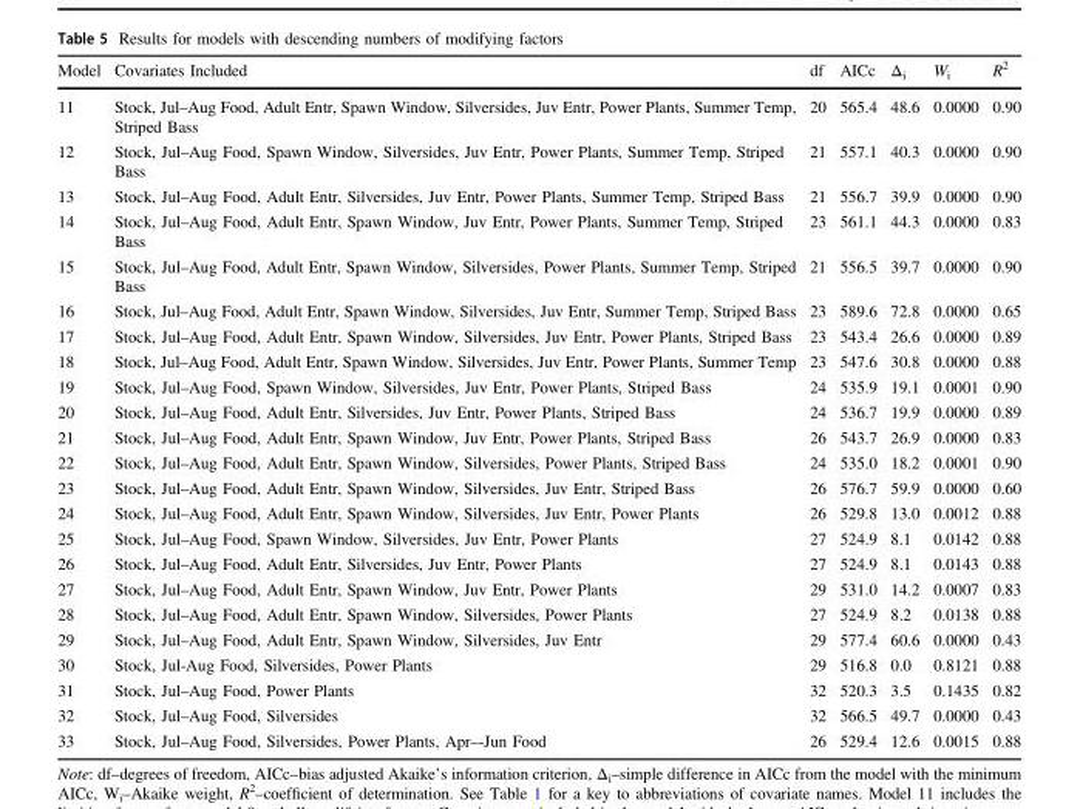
<table><thead><tr><td>Model</td><td>Covariates Included</td><td>df</td><td>AICc</td><td>Δ<sub>i</sub></td><td>W<sub>i</sub></td><td>R<sup>2</sup></td></tr></thead><tbody><tr><td>11</td><td>Stock, Jul–Aug Food, Adult Entr, Spawn Window, Silversides, Juv Entr, Power Plants, Summer Temp, Striped Bass</td><td>20</td><td>565.4</td><td>48.6</td><td>0.0000</td><td>0.90</td></tr><tr><td>12</td><td>Stock, Jul–Aug Food, Spawn Window, Silversides, Juv Entr, Power Plants, Summer Temp, Striped Bass</td><td>21</td><td>557.1</td><td>40.3</td><td>0.0000</td><td>0.90</td></tr><tr><td>13</td><td>Stock, Jul–Aug Food, Adult Entr, Silversides, Juv Entr, Power Plants, Summer Temp, Striped Bass</td><td>21</td><td>556.7</td><td>39.9</td><td>0.0000</td><td>0.90</td></tr><tr><td>14</td><td>Stock, Jul–Aug Food, Adult Entr, Spawn Window, Juv Entr, Power Plants, Summer Temp, Striped Bass</td><td>23</td><td>561.1</td><td>44.3</td><td>0.0000</td><td>0.83</td></tr><tr><td>15</td><td>Stock, Jul–Aug Food, Adult Entr, Spawn Window, Silversides, Power Plants, Summer Temp, Striped Bass</td><td>21</td><td>556.5</td><td>39.7</td><td>0.0000</td><td>0.90</td></tr><tr><td>16</td><td>Stock, Jul–Aug Food, Adult Entr, Spawn Window, Silversides, Juv Entr, Summer Temp, Striped Bass</td><td>23</td><td>589.6</td><td>72.8</td><td>0.0000</td><td>0.65</td></tr><tr><td>17</td><td>Stock, Jul–Aug Food, Adult Entr, Spawn Window, Silversides, Juv Entr, Power Plants, Striped Bass</td><td>23</td><td>543.4</td><td>26.6</td><td>0.0000</td><td>0.89</td></tr><tr><td>18</td><td>Stock, Jul–Aug Food, Adult Entr, Spawn Window, Silversides, Juv Entr, Power Plants, Summer Temp</td><td>23</td><td>547.6</td><td>30.8</td><td>0.0000</td><td>0.88</td></tr><tr><td>19</td><td>Stock, Jul–Aug Food, Spawn Window, Silversides, Juv Entr, Power Plants, Striped Bass</td><td>24</td><td>535.9</td><td>19.1</td><td>0.0001</td><td>0.90</td></tr><tr><td>20</td><td>Stock, Jul–Aug Food, Adult Entr, Silversides, Juv Entr, Power Plants, Striped Bass</td><td>24</td><td>536.7</td><td>19.9</td><td>0.0000</td><td>0.89</td></tr><tr><td>21</td><td>Stock, Jul–Aug Food, Adult Entr, Spawn Window, Juv Entr, Power Plants, Striped Bass</td><td>26</td><td>543.7</td><td>26.9</td><td>0.0000</td><td>0.83</td></tr><tr><td>22</td><td>Stock, Jul–Aug Food, Adult Entr, Spawn Window, Silversides, Power Plants, Striped Bass</td><td>24</td><td>535.0</td><td>18.2</td><td>0.0001</td><td>0.90</td></tr><tr><td>23</td><td>Stock, Jul–Aug Food, Adult Entr, Spawn Window, Silversides, Juv Entr, Striped Bass</td><td>26</td><td>576.7</td><td>59.9</td><td>0.0000</td><td>0.60</td></tr><tr><td>24</td><td>Stock, Jul–Aug Food, Adult Entr, Spawn Window, Silversides, Juv Entr, Power Plants</td><td>26</td><td>529.8</td><td>13.0</td><td>0.0012</td><td>0.88</td></tr><tr><td>25</td><td>Stock, Jul–Aug Food, Spawn Window, Silversides, Juv Entr, Power Plants</td><td>27</td><td>524.9</td><td>8.1</td><td>0.0142</td><td>0.88</td></tr><tr><td>26</td><td>Stock, Jul–Aug Food, Adult Entr, Silversides, Juv Entr, Power Plants</td><td>27</td><td>524.9</td><td>8.1</td><td>0.0143</td><td>0.88</td></tr><tr><td>27</td><td>Stock, Jul–Aug Food, Adult Entr, Spawn Window, Juv Entr, Power Plants</td><td>29</td><td>531.0</td><td>14.2</td><td>0.0007</td><td>0.83</td></tr><tr><td>28</td><td>Stock, Jul–Aug Food, Adult Entr, Spawn Window, Silversides, Power Plants</td><td>27</td><td>524.9</td><td>8.2</td><td>0.0138</td><td>0.88</td></tr><tr><td>29</td><td>Stock, Jul–Aug Food, Adult Entr, Spawn Window, Silversides, Juv Entr</td><td>29</td><td>577.4</td><td>60.6</td><td>0.0000</td><td>0.43</td></tr><tr><td>30</td><td>Stock, Jul-Aug Food, Silversides, Power Plants</td><td>29</td><td>516.8</td><td>0.0</td><td>0.8121</td><td>0.88</td></tr><tr><td>31</td><td>Stock, Jul–Aug Food, Power Plants</td><td>32</td><td>520.3</td><td>3.5</td><td>0.1435</td><td>0.82</td></tr><tr><td>32</td><td>Stock, Jul–Aug Food, Silversides</td><td>32</td><td>566.5</td><td>49.7</td><td>0.0000</td><td>0.43</td></tr><tr><td>33</td><td>Stock, Jul–Aug Food, Silversides, Power Plants, Apr–-Jun Food</td><td>26</td><td>529.4</td><td>12.6</td><td>0.0015</td><td>0.88</td></tr></tbody></table>